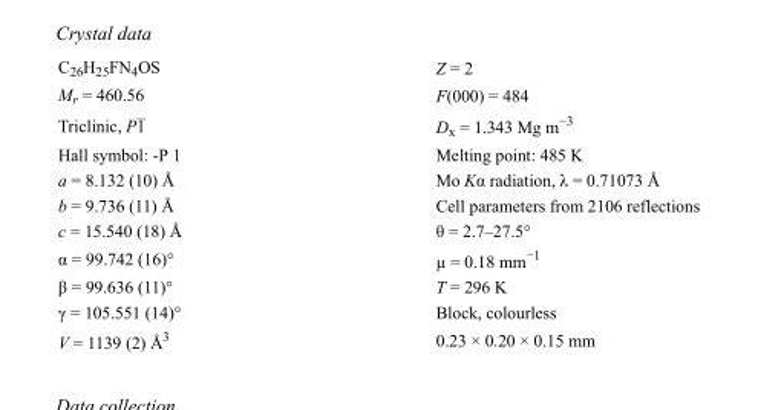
<table><tbody><tr><td>C<sub>26</sub>H<sub>25</sub>FN<sub>4</sub>OS</td><td>Z = 2</td></tr><tr><td>M<sub>r</sub> = 460.56</td><td>F(000) = 484</td></tr><tr><td>Triclinic, P1</td><td>D<sub>x</sub> = 1.343 Mg m<sup>−3</sup></td></tr><tr><td>Hall symbol: -P 1</td><td>Melting point: 485 K</td></tr><tr><td>a = 8.132 (10) Å</td><td>Mo Kα radiation, λ = 0.71073 Å</td></tr><tr><td>b = 9.736 (11) Å</td><td>Cell parameters from 2106 reflections</td></tr><tr><td>c = 15.540 (18) Å</td><td>θ = 2.7–27.5°</td></tr><tr><td>α = 99.742 (16)°</td><td>µ = 0.18 mm<sup>−1</sup></td></tr><tr><td>β = 99.636 (11)°</td><td>T = 296 K</td></tr><tr><td>γ = 105.551 (14)°</td><td>Block, colourless</td></tr><tr><td>V = 1139 (2) Å<sup>3</sup></td><td>0.23 × 0.20 × 0.15 mm</td></tr></tbody></table>